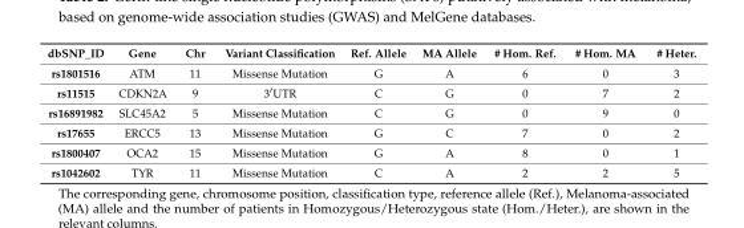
<table><thead><tr><td>dbSNP_ID</td><td>Gene</td><td>Chr</td><td>Variant Classification</td><td>Ref. Allele</td><td>MA Allele</td><td># Hom. Ref.</td><td># Hom. MA</td><td># Heter.</td></tr></thead><tbody><tr><td>rs1801516</td><td>ATM</td><td>11</td><td>Missense Mutation</td><td>G</td><td>A</td><td>6</td><td>0</td><td>3</td></tr><tr><td>rs11515</td><td>CDKN2A</td><td>9</td><td>3′UTR</td><td>C</td><td>G</td><td>0</td><td>7</td><td>2</td></tr><tr><td>rs16891982</td><td>SLC45A2</td><td>5</td><td>Missense Mutation</td><td>C</td><td>G</td><td>0</td><td>9</td><td>0</td></tr><tr><td>rs17655</td><td>ERCC5</td><td>13</td><td>Missense Mutation</td><td>G</td><td>C</td><td>7</td><td>0</td><td>2</td></tr><tr><td>rs1800407</td><td>OCA2</td><td>15</td><td>Missense Mutation</td><td>G</td><td>A</td><td>8</td><td>0</td><td>1</td></tr><tr><td>rs1042602</td><td>TYR</td><td>11</td><td>Missense Mutation</td><td>C</td><td>A</td><td>2</td><td>2</td><td>5</td></tr></tbody></table>